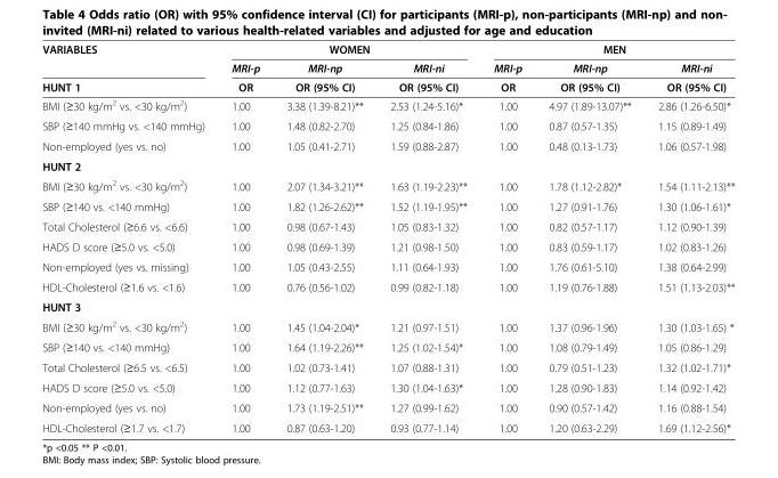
<table><thead><tr><td rowspan="3">VARIABLES HUNT 1</td><td colspan="3">WOMEN</td><td colspan="3">MEN</td></tr><tr><td rowspan="2">MRI-p OR</td><td rowspan="2">MRI-np OR (95% CI)</td><td rowspan="2">MRI-ni OR (95% CI)</td><td rowspan="2">MRI-p OR</td><td rowspan="2">MRI-np OR (95% CI)</td><td rowspan="2">MRI-ni OR (95% CI)</td></tr><tr></tr></thead><tbody><tr><td>BMI (≥30 kg/m<sup>2</sup> vs. &lt;30 kg/m<sup>2</sup>)</td><td>1.00</td><td>3.38 (1.39-8.21)**</td><td>2.53 (1.24-5.16)*</td><td>1.00</td><td>4.97 (1.89-13.07)**</td><td>2.86 (1.26-6.50)*</td></tr><tr><td>SBP (≥140 mmHg vs. &lt;140 mmHg)</td><td>1.00</td><td>1.48 (0.82-2.70)</td><td>1.25 (0.84-1.86)</td><td>1.00</td><td>0.87 (0.57-1.35)</td><td>1.15 (0.89-1.49)</td></tr><tr><td>Non-employed (yes vs. no)</td><td>1.00</td><td>1.05 (0.41-2.71)</td><td>1.59 (0.88-2.87)</td><td>1.00</td><td>0.48 (0.13-1.73)</td><td>1.06 (0.57-1.98)</td></tr><tr><td colspan="7">HUNT 2</td></tr><tr><td>BMI (≥30 kg/m<sup>2</sup> vs. &lt;30 kg/m<sup>2</sup>)</td><td>1.00</td><td>2.07 (1.34-3.21)**</td><td>1.63 (1.19-2.23)**</td><td>1.00</td><td>1.78 (1.12-2.82)*</td><td>1.54 (1.11-2.13)**</td></tr><tr><td>SBP (≥140 vs. &lt;140 mmHg)</td><td>1.00</td><td>1.82 (1.26-2.62)**</td><td>1.52 (1.19-1.95)**</td><td>1.00</td><td>1.27 (0.91-1.76)</td><td>1.30 (1.06-1.61)*</td></tr><tr><td>Total Cholesterol (≥6.6 vs. &lt;6.6)</td><td>1.00</td><td>0.98 (0.67-1.43)</td><td>1.05 (0.83-1.32)</td><td>1.00</td><td>0.82 (0.57-1.17)</td><td>1.12 (0.90-1.39)</td></tr><tr><td>HADS D score (≥5.0 vs. &lt;5.0)</td><td>1.00</td><td>0.98 (0.69-1.39)</td><td>1.21 (0.98-1.50)</td><td>1.00</td><td>0.83 (0.59-1.17)</td><td>1.02 (0.83-1.26)</td></tr><tr><td>Non-employed (yes vs. missing)</td><td>1.00</td><td>1.05 (0.43-2.55)</td><td>1.11 (0.64-1.93)</td><td>1.00</td><td>1.76 (0.61-5.10)</td><td>1.38 (0.64-2.99)</td></tr><tr><td>HDL-Cholesterol (≥1.6 vs. &lt;1.6)</td><td>1.00</td><td>0.76 (0.56-1.02)</td><td>0.99 (0.82-1.18)</td><td>1.00</td><td>1.19 (0.76-1.88)</td><td>1.51 (1.13-2.03)**</td></tr><tr><td colspan="7">HUNT 3</td></tr><tr><td>BMI (≥30 kg/m<sup>2</sup> vs. &lt;30 kg/m<sup>2</sup>)</td><td>1.00</td><td>1.45 (1.04-2.04)*</td><td>1.21 (0.97-1.51)</td><td>1.00</td><td>1.37 (0.96-1.96)</td><td>1.30 (1.03-1.65) *</td></tr><tr><td>SBP (≥140 vs. &lt;140 mmHg)</td><td>1.00</td><td>1.64 (1.19-2.26)**</td><td>1.25 (1.02-1.54)*</td><td>1.00</td><td>1.08 (0.79-1.49)</td><td>1.05 (0.86-1.29)</td></tr><tr><td>Total Cholesterol (≥6.5 vs. &lt;6.5)</td><td>1.00</td><td>1.02 (0.73-1.41)</td><td>1.07 (0.88-1.31)</td><td>1.00</td><td>0.79 (0.51-1.23)</td><td>1.32 (1.02-1.71)*</td></tr><tr><td>HADS D score (≥5.0 vs. &lt;5.0)</td><td>1.00</td><td>1.12 (0.77-1.63)</td><td>1.30 (1.04-1.63)*</td><td>1.00</td><td>1.28 (0.90-1.83)</td><td>1.14 (0.92-1.42)</td></tr><tr><td>Non-employed (yes vs. no)</td><td>1.00</td><td>1.73 (1.19-2.51)**</td><td>1.27 (0.99-1.62)</td><td>1.00</td><td>0.90 (0.57-1.42)</td><td>1.16 (0.88-1.54)</td></tr><tr><td>HDL-Cholesterol (≥1.7 vs. &lt;1.7)</td><td>1.00</td><td>0.87 (0.63-1.20)</td><td>0.93 (0.77-1.14)</td><td>1.00</td><td>1.20 (0.63-2.29)</td><td>1.69 (1.12-2.56)*</td></tr></tbody></table>